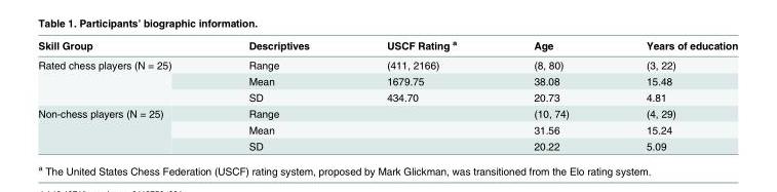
<table><thead><tr><td>Skill Group</td><td>Descriptives</td><td>USCF Rating <sup>a</sup></td><td>Age</td><td>Years of education</td></tr></thead><tbody><tr><td rowspan="3">Rated chess players (N = 25)</td><td>Range</td><td>(411, 2166)</td><td>(8, 80)</td><td>(3, 22)</td></tr><tr><td>Mean</td><td>1679.75</td><td>38.08</td><td>15.48</td></tr><tr><td>SD</td><td>434.70</td><td>20.73</td><td>4.81</td></tr><tr><td rowspan="3">Non-chess players (N = 25)</td><td>Range</td><td></td><td>(10, 74)</td><td>(4, 29)</td></tr><tr><td>Mean</td><td></td><td>31.56</td><td>15.24</td></tr><tr><td>SD</td><td></td><td>20.22</td><td>5.09</td></tr></tbody></table>